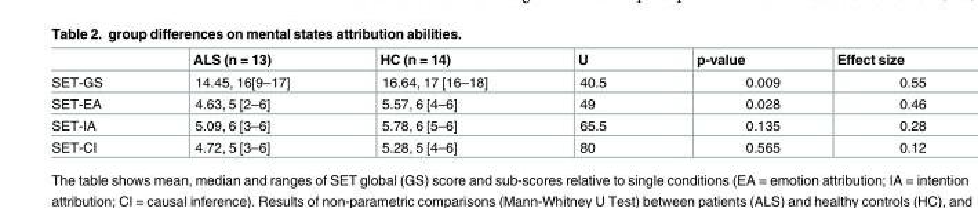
<table><thead><tr><td></td><td>ALS (n = 13)</td><td>HC (n = 14)</td><td>U</td><td>p-value</td><td>Effect size</td></tr></thead><tbody><tr><td>SET-GS</td><td>14.45, 16[9–17]</td><td>16.64, 17 [16–18]</td><td>40.5</td><td>0.009</td><td>0.55</td></tr><tr><td>SET-EA</td><td>4.63, 5 [2–6]</td><td>5.57, 6 [4–6]</td><td>49</td><td>0.028</td><td>0.46</td></tr><tr><td>SET-IA</td><td>5.09, 6 [3–6]</td><td>5.78, 6 [5–6]</td><td>65.5</td><td>0.135</td><td>0.28</td></tr><tr><td>SET-CI</td><td>4.72, 5 [3–6]</td><td>5.28, 5 [4–6]</td><td>80</td><td>0.565</td><td>0.12</td></tr></tbody></table>